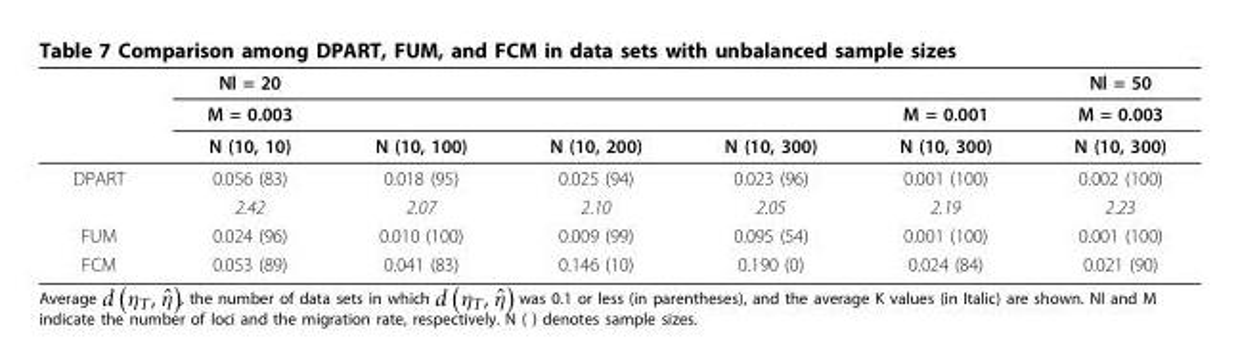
<table><thead><tr><td rowspan="3"></td><td rowspan="3">Nl = 20 M = 0.003 N (10, 10)</td><td rowspan="3">N (10, 100)</td><td rowspan="3">N (10, 200)</td><td rowspan="3">N (10, 300)</td><td rowspan="3">M = 0.001 N (10, 300)</td><td rowspan="3">Nl = 50 M = 0.003 N (10, 300)</td></tr><tr></tr><tr></tr></thead><tbody><tr><td rowspan="2">DPART</td><td>0.056 (83)</td><td>0.018 (95)</td><td>0.025 (94)</td><td>0.023 (96)</td><td>0.001 (100)</td><td>0.002 (100)</td></tr><tr><td>2.42</td><td>2.07</td><td>2.10</td><td>2.05</td><td>2.19</td><td>2.23</td></tr><tr><td>FUM</td><td>0.024 (96)</td><td>0.010 (100)</td><td>0.009 (99)</td><td>0.095 (54)</td><td>0.001 (100)</td><td>0.001 (100)</td></tr><tr><td>FCM</td><td>0.053 (89)</td><td>0.041 (83)</td><td>0.146 (10)</td><td>0.190 (0)</td><td>0.024 (84)</td><td>0.021 (90)</td></tr></tbody></table>